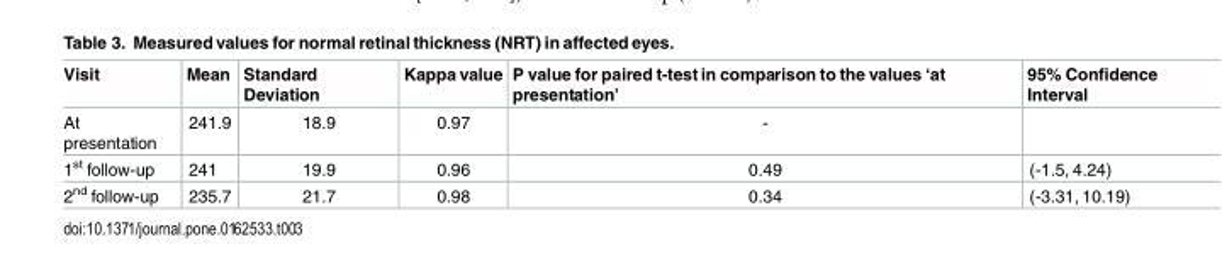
<table><thead><tr><td>Visit</td><td>Mean</td><td>Standard Deviation</td><td>Kappa value</td><td>P value for paired t-test in comparison to the values ‘at presentation’</td><td>95% Confidence Interval</td></tr></thead><tbody><tr><td>At presentation</td><td>241.9</td><td>18.9</td><td>0.97</td><td>-</td><td></td></tr><tr><td>1<sup>st</sup> follow-up</td><td>241</td><td>19.9</td><td>0.96</td><td>0.49</td><td>(-1.5, 4.24)</td></tr><tr><td>2<sup>nd</sup> follow-up</td><td>235.7</td><td>21.7</td><td>0.98</td><td>0.34</td><td>(-3.31, 10.19)</td></tr></tbody></table>